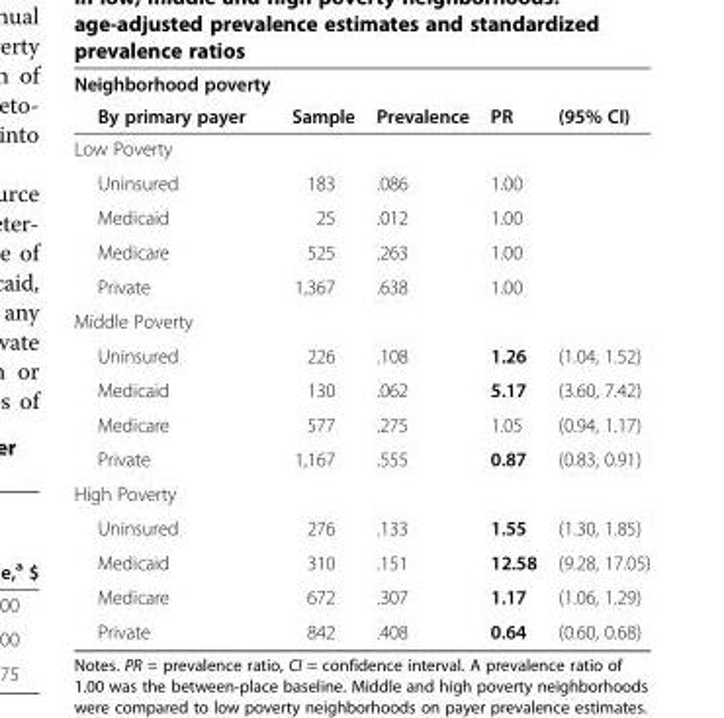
<table><thead><tr><td rowspan="2">Neighborhood poverty By primary payer</td><td rowspan="2">Sample</td><td rowspan="2">Prevalence</td><td rowspan="2">PR</td><td rowspan="2">(95% CI)</td></tr><tr></tr></thead><tbody><tr><td colspan="5">Low Poverty</td></tr><tr><td>Uninsured</td><td>183</td><td>.086</td><td>1.00</td><td></td></tr><tr><td>Medicaid</td><td>25</td><td>.012</td><td>1.00</td><td></td></tr><tr><td>Medicare</td><td>525</td><td>.263</td><td>1.00</td><td></td></tr><tr><td>Private</td><td>1,367</td><td>.638</td><td>1.00</td><td></td></tr><tr><td colspan="5">Middle Poverty</td></tr><tr><td>Uninsured</td><td>226</td><td>.108</td><td>1.26</td><td>(1.04, 1.52)</td></tr><tr><td>Medicaid</td><td>130</td><td>.062</td><td>5.17</td><td>(3.60, 7.42)</td></tr><tr><td>Medicare</td><td>577</td><td>.275</td><td>1.05</td><td>(0.94, 1.17)</td></tr><tr><td>Private</td><td>1,167</td><td>.555</td><td>0.87</td><td>(0.83, 0.91)</td></tr><tr><td colspan="5">High Poverty</td></tr><tr><td>Uninsured</td><td>276</td><td>.133</td><td>1.55</td><td>(1.30, 1.85)</td></tr><tr><td>Medicaid</td><td>310</td><td>.151</td><td>12.58</td><td>(9.28, 17.05)</td></tr><tr><td>Medicare</td><td>672</td><td>.307</td><td>1.17</td><td>(1.06, 1.29)</td></tr><tr><td>Private</td><td>842</td><td>.408</td><td>0.64</td><td>(0.60, 0.68)</td></tr></tbody></table>